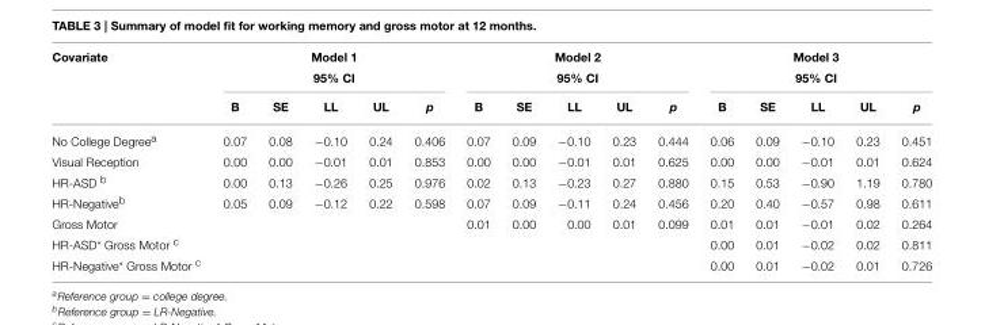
<table><thead><tr><td rowspan="2">Covariate</td><td colspan="5">Model 1 95% CI</td><td colspan="5">Model 2 95% CI</td><td colspan="5">Model 3 95% CI</td></tr><tr><td>B</td><td>SE</td><td>LL</td><td>UL</td><td>p</td><td>B</td><td>SE</td><td>LL</td><td>UL</td><td>p</td><td>B</td><td>SE</td><td>LL</td><td>UL</td><td>p</td></tr></thead><tbody><tr><td>No College Degree<sup>a</sup></td><td>0.07</td><td>0.08</td><td>−0.10</td><td>0.24</td><td>0.406</td><td>0.07</td><td>0.09</td><td>−0.10</td><td>0.23</td><td>0.444</td><td>0.06</td><td>0.09</td><td>−0.10</td><td>0.23</td><td>0.451</td></tr><tr><td>Visual Reception</td><td>0.00</td><td>0.00</td><td>−0.01</td><td>0.01</td><td>0.853</td><td>0.00</td><td>0.00</td><td>−0.01</td><td>0.01</td><td>0.625</td><td>0.00</td><td>0.00</td><td>−0.01</td><td>0.01</td><td>0.624</td></tr><tr><td>HR-ASD <sup>b</sup></td><td>0.00</td><td>0.13</td><td>−0.26</td><td>0.25</td><td>0.976</td><td>0.02</td><td>0.13</td><td>−0.23</td><td>0.27</td><td>0.880</td><td>0.15</td><td>0.53</td><td>−0.90</td><td>1.19</td><td>0.780</td></tr><tr><td>HR-Negative<sup>b</sup></td><td>0.05</td><td>0.09</td><td>−0.12</td><td>0.22</td><td>0.598</td><td>0.07</td><td>0.09</td><td>−0.11</td><td>0.24</td><td>0.456</td><td>0.20</td><td>0.40</td><td>−0.57</td><td>0.98</td><td>0.611</td></tr><tr><td>Gross Motor</td><td></td><td></td><td></td><td></td><td></td><td>0.01</td><td>0.00</td><td>0.00</td><td>0.01</td><td>0.099</td><td>0.01</td><td>0.01</td><td>−0.01</td><td>0.02</td><td>0.264</td></tr><tr><td>HR-ASD* Gross Motor <sup>c</sup></td><td></td><td></td><td></td><td></td><td></td><td></td><td></td><td></td><td></td><td></td><td>0.00</td><td>0.01</td><td>−0.02</td><td>0.02</td><td>0.811</td></tr><tr><td>HR-Negative* Gross Motor <sup>c</sup></td><td></td><td></td><td></td><td></td><td></td><td></td><td></td><td></td><td></td><td></td><td>0.00</td><td>0.01</td><td>−0.02</td><td>0.01</td><td>0.726</td></tr></tbody></table>